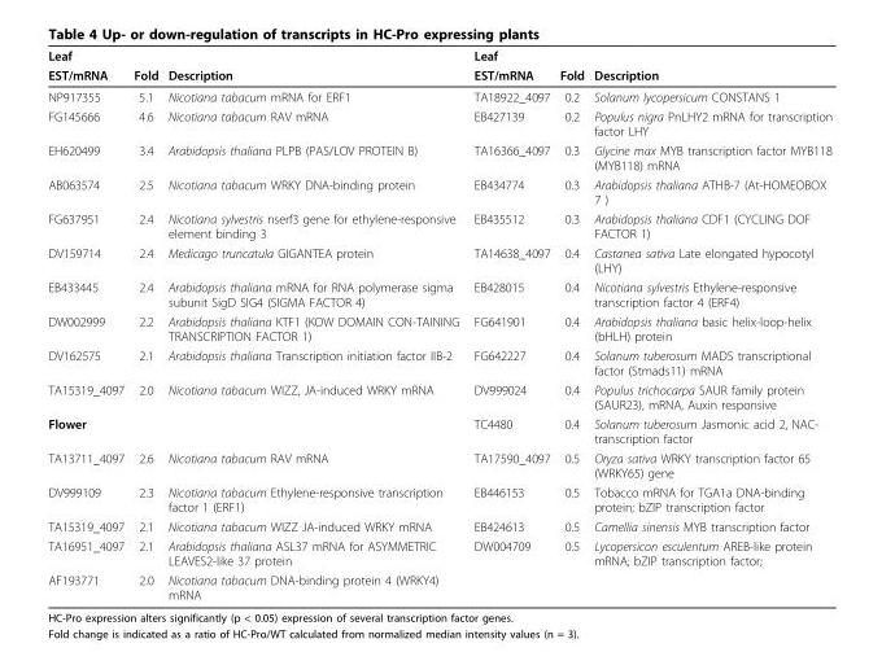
<table><thead><tr><td rowspan="2">Leaf EST/mRNA</td><td rowspan="2">Fold</td><td rowspan="2">Description</td><td rowspan="2">Leaf EST/mRNA</td><td rowspan="2">Fold</td><td rowspan="2">Description</td></tr><tr></tr></thead><tbody><tr><td>NP917355</td><td>5.1</td><td>Nicotiana tabacum mRNA for ERF1</td><td>TA18922_4097</td><td>0.2</td><td>Solanum lycopersicum CONSTANS 1</td></tr><tr><td>FG145666</td><td>4.6</td><td>Nicotiana tabacum RAV mRNA</td><td>EB427139</td><td>0.2</td><td>Populus nigra PnLHY2 mRNA for transcription factor LHY</td></tr><tr><td>EH620499</td><td>3.4</td><td>Arabidopsis thaliana PLPB (PAS/LOV PROTEIN B)</td><td>TA16366_4097</td><td>0.3</td><td>Glycine max MYB transcription factor MYB118 (MYB118) mRNA</td></tr><tr><td>AB063574</td><td>2.5</td><td>Nicotiana tabacum WRKY DNA-binding protein</td><td>EB434774</td><td>0.3</td><td>Arabidopsis thaliana ATHB-7 (At-HOMEOBOX 7 )</td></tr><tr><td>FG637951</td><td>2.4</td><td>Nicotiana sylvestris nserf3 gene for ethylene-responsive element binding 3</td><td>EB435512</td><td>0.3</td><td>Arabidopsis thaliana CDF1 (CYCLING DOF FACTOR 1)</td></tr><tr><td>DV159714</td><td>2.4</td><td>Medicago truncatula GIGANTEA protein</td><td>TA14638_4097</td><td>0.4</td><td>Castanea sativa Late elongated hypocotyl (LHY)</td></tr><tr><td>EB433445</td><td>2.4</td><td>Arabidopsis thaliana mRNA for RNA polymerase sigma subunit SigD SIG4 (SIGMA FACTOR 4)</td><td>EB428015</td><td>0.4</td><td>Nicotiana sylvestris Ethylene-responsive transcription factor 4 (ERF4)</td></tr><tr><td>DW002999</td><td>2.2</td><td>Arabidopsis thaliana KTF1 (KOW DOMAIN CON-TAINING TRANSCRIPTION FACTOR 1)</td><td>FG641901</td><td>0.4</td><td>Arabidopsis thaliana basic helix-loop-helix (bHLH) protein</td></tr><tr><td>DV162575</td><td>2.1</td><td>Arabidopsis thaliana Transcription initiation factor IIB-2</td><td>FG642227</td><td>0.4</td><td>Solanum tuberosum MADS transcriptional factor (Stmads11) mRNA</td></tr><tr><td>TA15319_4097</td><td>2.0</td><td>Nicotiana tabacum WIZZ, JA-induced WRKY mRNA</td><td>DV999024</td><td>0.4</td><td>Populus trichocarpa SAUR family protein (SAUR23), mRNA, Auxin responsive</td></tr><tr><td>Flower</td><td></td><td></td><td>TC4480</td><td>0.4</td><td>Solanum tuberosum Jasmonic acid 2, NAC- transcription factor</td></tr><tr><td>TA13711_4097</td><td>2.6</td><td>Nicotiana tabacum RAV mRNA</td><td>TA17590_4097</td><td>0.5</td><td>Oryza sativa WRKY transcription factor 65 (WRKY65) gene</td></tr><tr><td>DV999109</td><td>2.3</td><td>Nicotiana tabacum Ethylene-responsive transcription factor 1 (ERF1)</td><td>EB446153</td><td>0.5</td><td>Tobacco mRNA for TGA1a DNA-binding protein; bZIP transcription factor</td></tr><tr><td>TA15319_4097</td><td>2.1</td><td>Nicotiana tabacum WIZZ JA-induced WRKY mRNA</td><td>EB424613</td><td>0.5</td><td>Camellia sinensis MYB transcription factor</td></tr><tr><td>TA16951_4097</td><td>2.1</td><td>Arabidopsis thaliana ASL37 mRNA for ASYMMETRIC LEAVES2-like 37 protein</td><td>DW004709</td><td>0.5</td><td>Lycopersicon esculentum AREB-like protein mRNA; bZIP transcription factor;</td></tr><tr><td>AF193771</td><td>2.0</td><td>Nicotiana tabacum DNA-binding protein 4 (WRKY4) mRNA</td><td></td><td></td><td></td></tr></tbody></table>